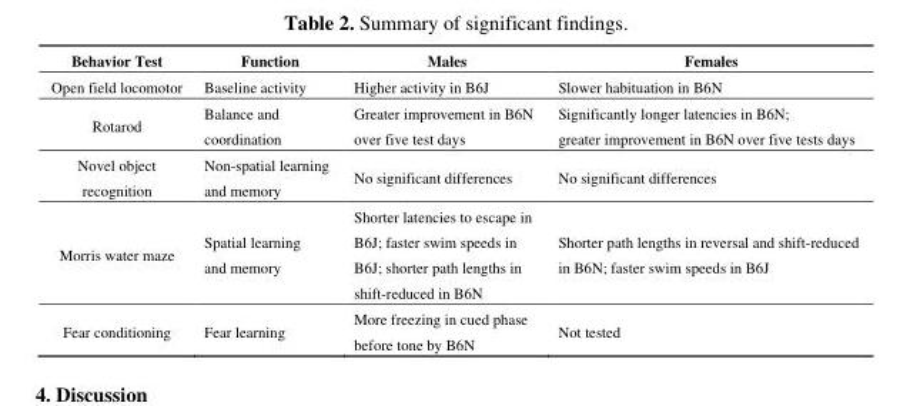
<table><thead><tr><td>Behavior Test</td><td>Function</td><td>Males</td><td>Females</td></tr></thead><tbody><tr><td>Open field locomotor</td><td>Baseline activity</td><td>Higher activity in B6J</td><td>Slower habituation in B6N</td></tr><tr><td>Rotarod</td><td>Balance and coordination</td><td>Greater improvement in B6N over five test days</td><td>Significantly longer latencies in B6N; greater improvement in B6N over five tests days</td></tr><tr><td>Novel object recognition</td><td>Non-spatial learning and memory</td><td>No significant differences</td><td>No significant differences</td></tr><tr><td>Morris water maze</td><td>Spatial learning and memory</td><td>Shorter latencies to escape in B6J; faster swim speeds in B6J; shorter path lengths in shift-reduced in B6N</td><td>Shorter path lengths in reversal and shift-reduced in B6N; faster swim speeds in B6J</td></tr><tr><td>Fear conditioning</td><td>Fear learning</td><td>More freezing in cued phase before tone by B6N</td><td>Not tested</td></tr></tbody></table>